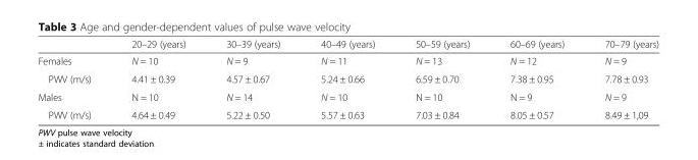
<table><thead><tr><td></td><td>20–29 (years)</td><td>30–39 (years)</td><td>40–49 (years)</td><td>50–59 (years)</td><td>60–69 (years)</td><td>70–79 (years)</td></tr></thead><tbody><tr><td>Females</td><td>N = 10</td><td>N = 9</td><td>N = 11</td><td>N = 13</td><td>N = 12</td><td>N = 9</td></tr><tr><td>PWV (m/s)</td><td>4.41 ± 0.39</td><td>4.57 ± 0.67</td><td>5.24 ± 0.66</td><td>6.59 ± 0.70</td><td>7.38 ± 0.95</td><td>7.78 ± 0.93</td></tr><tr><td>Males</td><td>N = 10</td><td>N = 14</td><td>N = 10</td><td>N = 10</td><td>N = 9</td><td>N = 9</td></tr><tr><td>PWV (m/s)</td><td>4.64 ± 0.49</td><td>5.22 ± 0.50</td><td>5.57 ± 0.63</td><td>7.03 ± 0.84</td><td>8.05 ± 0.57</td><td>8.49 ± 1,09</td></tr></tbody></table>